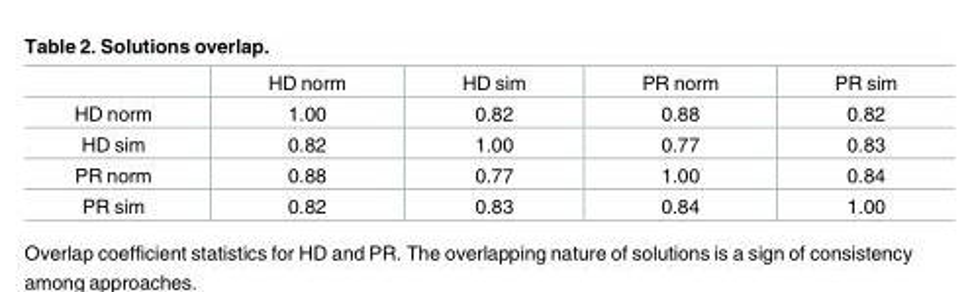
<table><thead><tr><td></td><td>HD norm</td><td>HD sim</td><td>PR norm</td><td>PR sim</td></tr></thead><tbody><tr><td>HD norm</td><td>1.00</td><td>0.82</td><td>0.88</td><td>0.82</td></tr><tr><td>HD sim</td><td>0.82</td><td>1.00</td><td>0.77</td><td>0.83</td></tr><tr><td>PR norm</td><td>0.88</td><td>0.77</td><td>1.00</td><td>0.84</td></tr><tr><td>PR sim</td><td>0.82</td><td>0.83</td><td>0.84</td><td>1.00</td></tr></tbody></table>